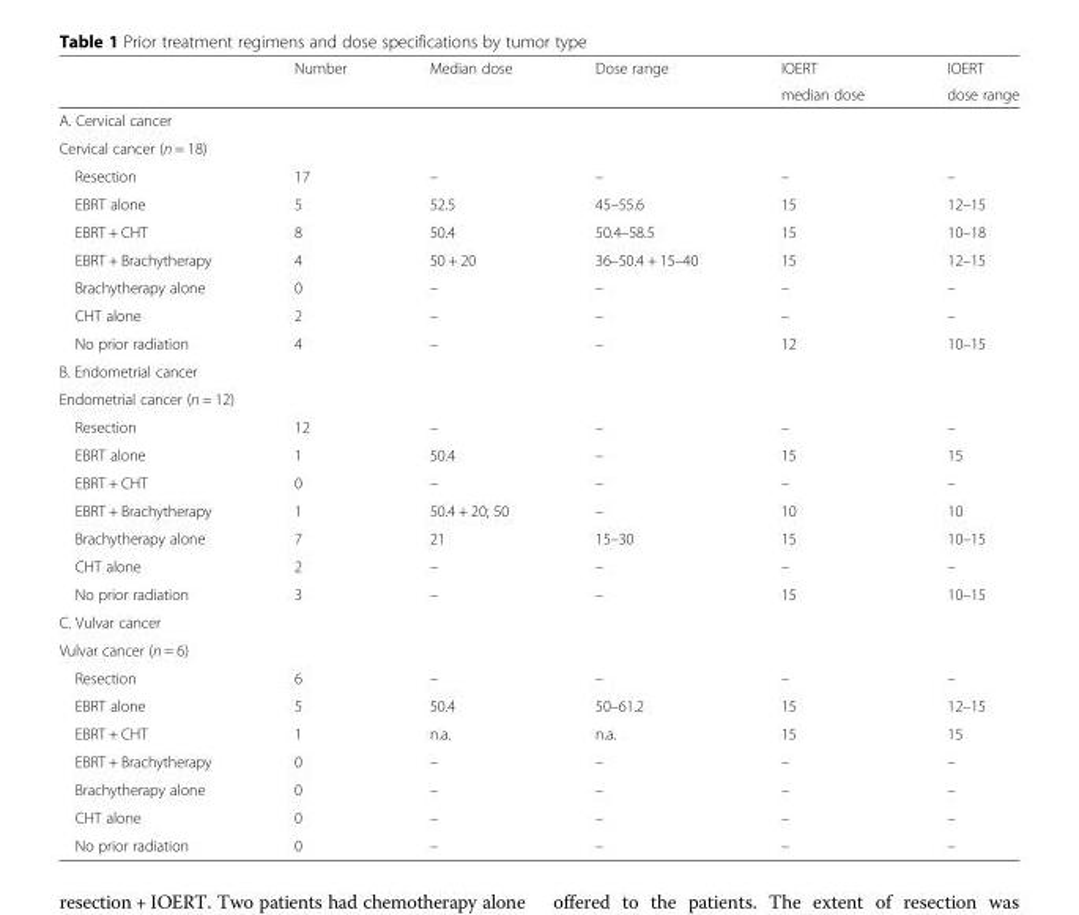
<table><thead><tr><td rowspan="2"></td><td rowspan="2">Number</td><td rowspan="2">Median dose</td><td rowspan="2">Dose range</td><td rowspan="2">IOERT median dose</td><td rowspan="2">IOERT dose range</td></tr><tr></tr></thead><tbody><tr><td colspan="6">A. Cervical cancer</td></tr><tr><td colspan="6">Cervical cancer (n = 18)</td></tr><tr><td>Resection</td><td>17</td><td>–</td><td>–</td><td>–</td><td>–</td></tr><tr><td>EBRT alone</td><td>5</td><td>52.5</td><td>45–55.6</td><td>15</td><td>12–15</td></tr><tr><td>EBRT + CHT</td><td>8</td><td>50.4</td><td>50.4–58.5</td><td>15</td><td>10–18</td></tr><tr><td>EBRT + Brachytherapy</td><td>4</td><td>50 + 20</td><td>36–50.4 + 15–40</td><td>15</td><td>12–15</td></tr><tr><td>Brachytherapy alone</td><td>0</td><td>–</td><td>–</td><td>–</td><td>–</td></tr><tr><td>CHT alone</td><td>2</td><td>–</td><td>–</td><td>–</td><td>–</td></tr><tr><td>No prior radiation</td><td>4</td><td>–</td><td>–</td><td>12</td><td>10–15</td></tr><tr><td colspan="6">B. Endometrial cancer</td></tr><tr><td colspan="6">Endometrial cancer (n = 12)</td></tr><tr><td>Resection</td><td>12</td><td>–</td><td>–</td><td>–</td><td>–</td></tr><tr><td>EBRT alone</td><td>1</td><td>50.4</td><td>–</td><td>15</td><td>15</td></tr><tr><td>EBRT + CHT</td><td>0</td><td>–</td><td>–</td><td>–</td><td>–</td></tr><tr><td>EBRT + Brachytherapy</td><td>1</td><td>50.4 + 20; 50</td><td>–</td><td>10</td><td>10</td></tr><tr><td>Brachytherapy alone</td><td>7</td><td>21</td><td>15–30</td><td>15</td><td>10–15</td></tr><tr><td>CHT alone</td><td>2</td><td>–</td><td>–</td><td>–</td><td>–</td></tr><tr><td>No prior radiation</td><td>3</td><td>–</td><td>–</td><td>15</td><td>10–15</td></tr><tr><td colspan="6">C. Vulvar cancer</td></tr><tr><td colspan="6">Vulvar cancer (n = 6)</td></tr><tr><td>Resection</td><td>6</td><td>–</td><td>–</td><td>–</td><td>–</td></tr><tr><td>EBRT alone</td><td>5</td><td>50.4</td><td>50–61.2</td><td>15</td><td>12–15</td></tr><tr><td>EBRT + CHT</td><td>1</td><td>n.a.</td><td>n.a.</td><td>15</td><td>15</td></tr><tr><td>EBRT + Brachytherapy</td><td>0</td><td>–</td><td>–</td><td>–</td><td>–</td></tr><tr><td>Brachytherapy alone</td><td>0</td><td>–</td><td>–</td><td>–</td><td>–</td></tr><tr><td>CHT alone</td><td>0</td><td>–</td><td>–</td><td>–</td><td>–</td></tr><tr><td>No prior radiation</td><td>0</td><td>–</td><td>–</td><td>–</td><td>–</td></tr></tbody></table>